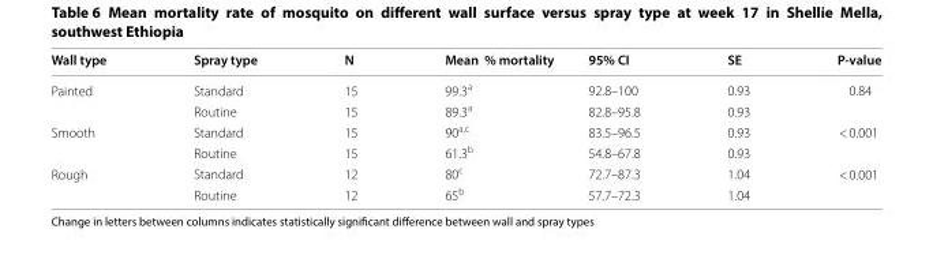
<table><thead><tr><td>Wall type</td><td>Spray type</td><td>N</td><td>Mean % mortality</td><td>95% CI</td><td>SE</td><td>P-value</td></tr></thead><tbody><tr><td rowspan="2">Painted</td><td>Standard</td><td>15</td><td>99.3<sup>a</sup></td><td>92.8–100</td><td>0.93</td><td rowspan="2">0.84</td></tr><tr><td>Routine</td><td>15</td><td>89.3<sup>a</sup></td><td>82.8–95.8</td><td>0.93</td></tr><tr><td rowspan="2">Smooth</td><td>Standard</td><td>15</td><td>90<sup>a,c</sup></td><td>83.5–96.5</td><td>0.93</td><td rowspan="2">&lt; 0.001</td></tr><tr><td>Routine</td><td>15</td><td>61.3<sup>b</sup></td><td>54.8–67.8</td><td>0.93</td></tr><tr><td rowspan="2">Rough</td><td>Standard</td><td>12</td><td>80<sup>c</sup></td><td>72.7–87.3</td><td>1.04</td><td rowspan="2">&lt; 0.001</td></tr><tr><td>Routine</td><td>12</td><td>65<sup>b</sup></td><td>57.7–72.3</td><td>1.04</td></tr></tbody></table>